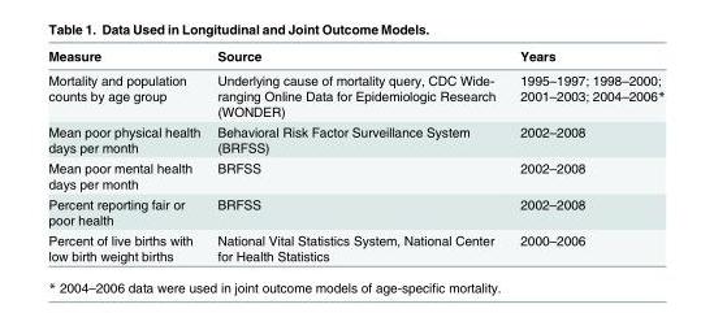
<table><thead><tr><td>Measure</td><td>Source</td><td>Years</td></tr></thead><tbody><tr><td>Mortality and population counts by age group</td><td>Underlying cause of mortality query, CDC Wide- ranging Online Data for Epidemiologic Research (WONDER)</td><td>1995–1997; 1998–2000; 2001–2003; 2004–2006*</td></tr><tr><td>Mean poor physical health days per month</td><td>Behavioral Risk Factor Surveillance System (BRFSS)</td><td>2002–2008</td></tr><tr><td>Mean poor mental health days per month</td><td>BRFSS</td><td>2002–2008</td></tr><tr><td>Percent reporting fair or poor health</td><td>BRFSS</td><td>2002–2008</td></tr><tr><td>Percent of live births with low birth weight births</td><td>National Vital Statistics System, National Center for Health Statistics</td><td>2000–2006</td></tr></tbody></table>